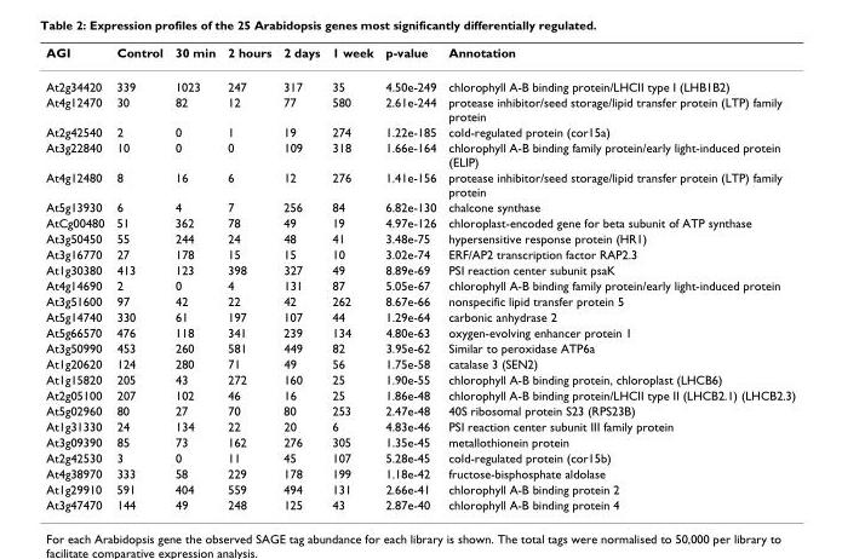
<table><thead><tr><td>AGI</td><td>Control</td><td>30 min</td><td>2 hours</td><td>2 days</td><td>1 week</td><td>p-value</td><td>Annotation</td></tr></thead><tbody><tr><td>At2g34420</td><td>339</td><td>1023</td><td>247</td><td>317</td><td>35</td><td>4.50e-249</td><td>chlorophyll A-B binding protein/LHCII type I (LHB1B2)</td></tr><tr><td>At4g12470</td><td>30</td><td>82</td><td>12</td><td>77</td><td>580</td><td>2.61e-244</td><td>protease inhibitor/seed storage/lipid transfer protein (LTP) family protein</td></tr><tr><td>At2g42540</td><td>2</td><td>0</td><td>1</td><td>19</td><td>274</td><td>1.22e-185</td><td>cold-regulated protein (cor15a)</td></tr><tr><td>At3g22840</td><td>10</td><td>0</td><td>0</td><td>109</td><td>318</td><td>1.66e-164</td><td>chlorophyll A-B binding family protein/early light-induced protein (ELIP)</td></tr><tr><td>At4g12480</td><td>8</td><td>16</td><td>6</td><td>12</td><td>276</td><td>1.41e-156</td><td>protease inhibitor/seed storage/lipid transfer protein (LTP) family protein</td></tr><tr><td>At5g13930</td><td>6</td><td>4</td><td>7</td><td>256</td><td>84</td><td>6.82e-130</td><td>chalcone synthase</td></tr><tr><td>AtCg00480</td><td>51</td><td>362</td><td>78</td><td>49</td><td>19</td><td>4.97e-126</td><td>chloroplast-encoded gene for beta subunit of ATP synthase</td></tr><tr><td>At3g50450</td><td>55</td><td>244</td><td>24</td><td>48</td><td>41</td><td>3.48e-75</td><td>hypersensitive response protein (HR1)</td></tr><tr><td>At3g16770</td><td>27</td><td>178</td><td>15</td><td>15</td><td>10</td><td>3.02e-74</td><td>ERF/AP2 transcription factor RAP2.3</td></tr><tr><td>At1g30380</td><td>413</td><td>123</td><td>398</td><td>327</td><td>49</td><td>8.89e-69</td><td>PSI reaction center subunit psaK</td></tr><tr><td>At4g14690</td><td>2</td><td>0</td><td>4</td><td>131</td><td>87</td><td>5.05e-67</td><td>chlorophyll A-B binding family protein/early light-induced protein</td></tr><tr><td>At3g51600</td><td>97</td><td>42</td><td>22</td><td>42</td><td>262</td><td>8.67e-66</td><td>nonspecific lipid transfer protein 5</td></tr><tr><td>At5g14740</td><td>330</td><td>61</td><td>197</td><td>107</td><td>44</td><td>1.29e-64</td><td>carbonic anhydrase 2</td></tr><tr><td>At5g66570</td><td>476</td><td>118</td><td>341</td><td>239</td><td>134</td><td>4.80e-63</td><td>oxygen-evolving enhancer protein 1</td></tr><tr><td>At3g50990</td><td>453</td><td>260</td><td>581</td><td>449</td><td>82</td><td>3.95e-62</td><td>Similar to peroxidase ATP6a</td></tr><tr><td>At1g20620</td><td>124</td><td>280</td><td>71</td><td>49</td><td>56</td><td>1.75e-58</td><td>catalase 3 (SEN2)</td></tr><tr><td>At1g15820</td><td>205</td><td>43</td><td>272</td><td>160</td><td>25</td><td>1.90e-55</td><td>chlorophyll A-B binding protein, chloroplast (LHCB6)</td></tr><tr><td>At2g05100</td><td>207</td><td>102</td><td>46</td><td>16</td><td>25</td><td>1.86e-48</td><td>chlorophyll A-B binding protein/LHCII type II (LHCB2.1) (LHCB2.3)</td></tr><tr><td>At5g02960</td><td>80</td><td>27</td><td>70</td><td>80</td><td>253</td><td>2.47e-48</td><td>40S ribosomal protein S23 (RPS23B)</td></tr><tr><td>At1g31330</td><td>24</td><td>134</td><td>22</td><td>20</td><td>6</td><td>4.83e-46</td><td>PSI reaction center subunit III family protein</td></tr><tr><td>At3g09390</td><td>85</td><td>73</td><td>162</td><td>276</td><td>305</td><td>1.35e-45</td><td>metallothionein protein</td></tr><tr><td>At2g42530</td><td>3</td><td>0</td><td>11</td><td>45</td><td>107</td><td>5.28e-45</td><td>cold-regulated protein (cor15b)</td></tr><tr><td>At4g38970</td><td>333</td><td>58</td><td>229</td><td>178</td><td>199</td><td>1.18e-42</td><td>fructose-bisphosphate aldolase</td></tr><tr><td>At1g29910</td><td>591</td><td>404</td><td>559</td><td>494</td><td>131</td><td>2.66e-41</td><td>chlorophyll A-B binding protein 2</td></tr><tr><td>At3g47470</td><td>144</td><td>49</td><td>248</td><td>125</td><td>43</td><td>2.87e-40</td><td>chlorophyll A-B binding protein 4</td></tr></tbody></table>